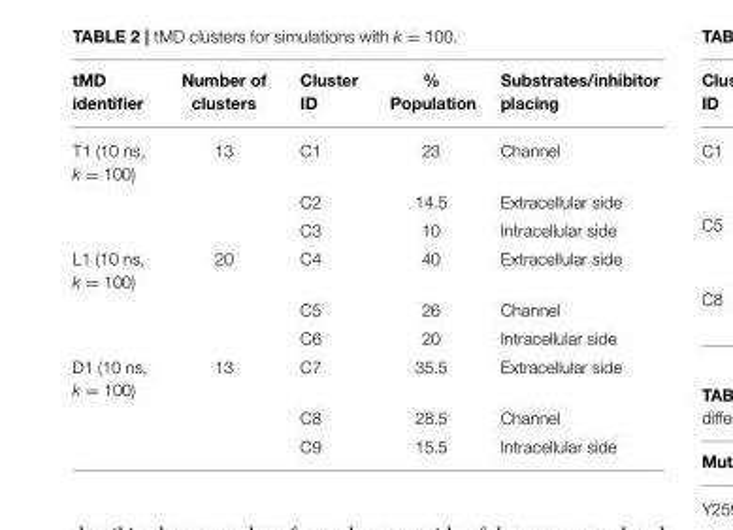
<table><thead><tr><td>tMD identifier</td><td>Number of clusters</td><td>Cluster ID</td><td>% Population</td><td>Substrates/inhibitor placing</td></tr></thead><tbody><tr><td rowspan="3">T1 (10 ns, k = 100)</td><td>13</td><td>C1</td><td>23</td><td>Channel</td></tr><tr><td></td><td>C2</td><td>14.5</td><td>Extracellular side</td></tr><tr><td></td><td>C3</td><td>10</td><td>Intracellular side</td></tr><tr><td rowspan="3">L1 (10 ns, k = 100)</td><td>20</td><td>C4</td><td>40</td><td>Extracellular side</td></tr><tr><td></td><td>C5</td><td>26</td><td>Channel</td></tr><tr><td></td><td>C6</td><td>20</td><td>Intracellular side</td></tr><tr><td rowspan="3">D1 (10 ns, k = 100)</td><td>13</td><td>C7</td><td>35.5</td><td>Extracellular side</td></tr><tr><td></td><td>C8</td><td>28.5</td><td>Channel</td></tr><tr><td></td><td>C9</td><td>15.5</td><td>Intracellular side</td></tr></tbody></table>